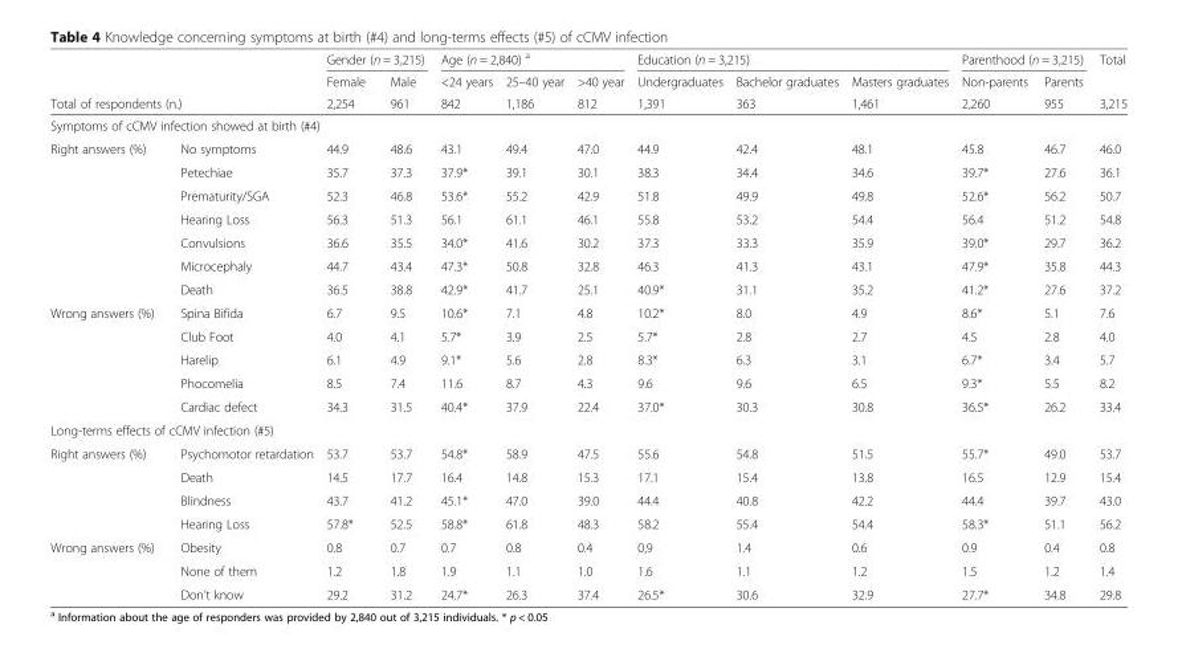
<table><thead><tr><td rowspan="2"></td><td rowspan="2"></td><td colspan="2">Gender (n = 3,215)</td><td colspan="3">Age (n = 2,840) <sup>a</sup></td><td colspan="3">Education (n = 3,215)</td><td colspan="2">Parenthood (n = 3,215)</td><td rowspan="3">Total 3,215</td></tr><tr><td rowspan="2">Female 2,254</td><td rowspan="2">Male 961</td><td rowspan="2">&lt;24 years 842</td><td rowspan="2">25–40 year 1,186</td><td rowspan="2">&gt;40 year 812</td><td rowspan="2">Undergraduates 1,391</td><td rowspan="2">Bachelor graduates 363</td><td rowspan="2">Masters graduates 1,461</td><td rowspan="2">Non-parents 2,260</td><td rowspan="2">Parents 955</td></tr><tr><td colspan="2">Total of respondents (n.)</td></tr></thead><tbody><tr><td colspan="13">Symptoms of cCMV infection showed at birth (#4)</td></tr><tr><td rowspan="7">Right answers (%)</td><td>No symptoms</td><td>44.9</td><td>48.6</td><td>43.1</td><td>49.4</td><td>47.0</td><td>44.9</td><td>42.4</td><td>48.1</td><td>45.8</td><td>46.7</td><td>46.0</td></tr><tr><td>Petechiae</td><td>35.7</td><td>37.3</td><td>37.9*</td><td>39.1</td><td>30.1</td><td>38.3</td><td>34.4</td><td>34.6</td><td>39.7*</td><td>27.6</td><td>36.1</td></tr><tr><td>Prematurity/SGA</td><td>52.3</td><td>46.8</td><td>53.6*</td><td>55.2</td><td>42.9</td><td>51.8</td><td>49.9</td><td>49.8</td><td>52.6*</td><td>56.2</td><td>50.7</td></tr><tr><td>Hearing Loss</td><td>56.3</td><td>51.3</td><td>56.1</td><td>61.1</td><td>46.1</td><td>55.8</td><td>53.2</td><td>54.4</td><td>56.4</td><td>51.2</td><td>54.8</td></tr><tr><td>Convulsions</td><td>36.6</td><td>35.5</td><td>34.0*</td><td>41.6</td><td>30.2</td><td>37.3</td><td>33.3</td><td>35.9</td><td>39.0*</td><td>29.7</td><td>36.2</td></tr><tr><td>Microcephaly</td><td>44.7</td><td>43.4</td><td>47.3*</td><td>50.8</td><td>32.8</td><td>46.3</td><td>41.3</td><td>43.1</td><td>47.9*</td><td>35.8</td><td>44.3</td></tr><tr><td>Death</td><td>36.5</td><td>38.8</td><td>42.9*</td><td>41.7</td><td>25.1</td><td>40.9*</td><td>31.1</td><td>35.2</td><td>41.2*</td><td>27.6</td><td>37.2</td></tr><tr><td rowspan="5">Wrong answers (%)</td><td>Spina Bifida</td><td>6.7</td><td>9.5</td><td>10.6*</td><td>7.1</td><td>4.8</td><td>10.2*</td><td>8.0</td><td>4.9</td><td>8.6*</td><td>5.1</td><td>7.6</td></tr><tr><td>Club Foot</td><td>4.0</td><td>4.1</td><td>5.7*</td><td>3.9</td><td>2.5</td><td>5.7*</td><td>2.8</td><td>2.7</td><td>4.5</td><td>2.8</td><td>4.0</td></tr><tr><td>Harelip</td><td>6.1</td><td>4.9</td><td>9.1*</td><td>5.6</td><td>2.8</td><td>8.3*</td><td>6.3</td><td>3.1</td><td>6.7*</td><td>3.4</td><td>5.7</td></tr><tr><td>Phocomelia</td><td>8.5</td><td>7.4</td><td>11.6</td><td>8.7</td><td>4.3</td><td>9.6</td><td>9.6</td><td>6.5</td><td>9.3*</td><td>5.5</td><td>8.2</td></tr><tr><td>Cardiac defect</td><td>34.3</td><td>31.5</td><td>40.4*</td><td>37.9</td><td>22.4</td><td>37.0*</td><td>30.3</td><td>30.8</td><td>36.5*</td><td>26.2</td><td>33.4</td></tr><tr><td colspan="13">Long-terms effects of cCMV infection (#5)</td></tr><tr><td rowspan="4">Right answers (%)</td><td>Psychomotor retardation</td><td>53.7</td><td>53.7</td><td>54.8*</td><td>58.9</td><td>47.5</td><td>55.6</td><td>54.8</td><td>51.5</td><td>55.7*</td><td>49.0</td><td>53.7</td></tr><tr><td>Death</td><td>14.5</td><td>17.7</td><td>16.4</td><td>14.8</td><td>15.3</td><td>17.1</td><td>15.4</td><td>13.8</td><td>16.5</td><td>12.9</td><td>15.4</td></tr><tr><td>Blindness</td><td>43.7</td><td>41.2</td><td>45.1*</td><td>47.0</td><td>39.0</td><td>44.4</td><td>40.8</td><td>42.2</td><td>44.4</td><td>39.7</td><td>43.0</td></tr><tr><td>Hearing Loss</td><td>57.8*</td><td>52.5</td><td>58.8*</td><td>61.8</td><td>48.3</td><td>58.2</td><td>55.4</td><td>54.4</td><td>58.3*</td><td>51.1</td><td>56.2</td></tr><tr><td rowspan="3">Wrong answers (%)</td><td>Obesity</td><td>0.8</td><td>0.7</td><td>0.7</td><td>0.8</td><td>0.4</td><td>0,9</td><td>1.4</td><td>0.6</td><td>0.9</td><td>0.4</td><td>0.8</td></tr><tr><td>None of them</td><td>1.2</td><td>1.8</td><td>1.9</td><td>1.1</td><td>1.0</td><td>1.6</td><td>1.1</td><td>1.2</td><td>1.5</td><td>1.2</td><td>1.4</td></tr><tr><td>Don’t know</td><td>29.2</td><td>31.2</td><td>24.7*</td><td>26.3</td><td>37.4</td><td>26.5*</td><td>30.6</td><td>32.9</td><td>27.7*</td><td>34.8</td><td>29.8</td></tr></tbody></table>